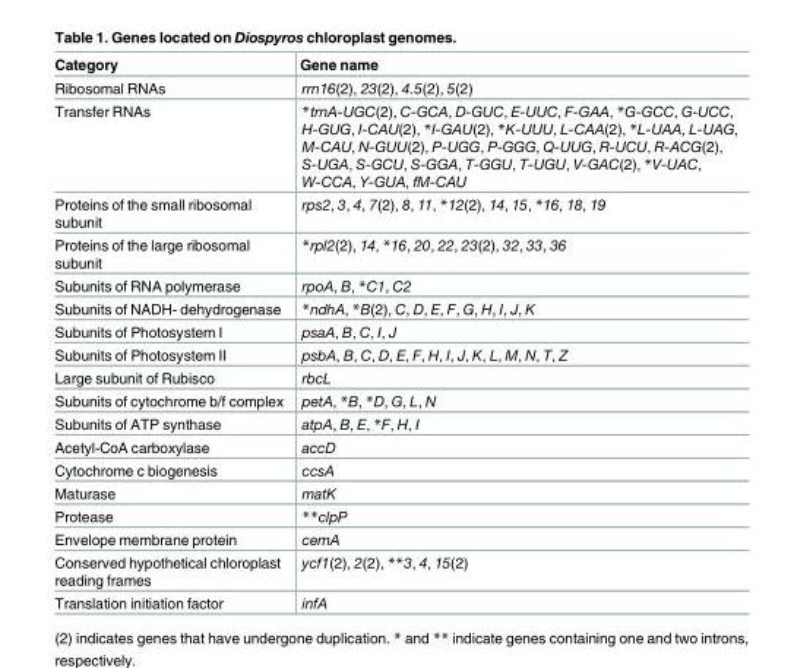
<table><thead><tr><td>Category</td><td>Gene name</td></tr></thead><tbody><tr><td>Ribosomal RNAs</td><td>rrn16(2), 23(2), 4.5(2), 5(2)</td></tr><tr><td>Transfer RNAs</td><td>*trnA-UGC(2), C-GCA, D-GUC, E-UUC, F-GAA, *G-GCC, G-UCC, H-GUG, I-CAU(2), *I-GAU(2), *K-UUU, L-CAA(2), *L-UAA, L-UAG, M-CAU, N-GUU(2), P-UGG, P-GGG, Q-UUG, R-UCU, R-ACG(2), S-UGA, S-GCU, S-GGA, T-GGU, T-UGU, V-GAC(2), *V-UAC, W-CCA, Y-GUA, fM-CAU</td></tr><tr><td>Proteins of the small ribosomal subunit</td><td>rps2, 3, 4, 7(2), 8, 11, *12(2), 14, 15, *16, 18, 19</td></tr><tr><td>Proteins of the large ribosomal subunit</td><td>*rpl2(2), 14, *16, 20, 22, 23(2), 32, 33, 36</td></tr><tr><td>Subunits of RNA polymerase</td><td>rpoA, B, *C1, C2</td></tr><tr><td>Subunits of NADH- dehydrogenase</td><td>*ndhA, *B(2), C, D, E, F, G, H, I, J, K</td></tr><tr><td>Subunits of Photosystem I</td><td>psaA, B, C, I, J</td></tr><tr><td>Subunits of Photosystem II</td><td>psbA, B, C, D, E, F, H, I, J, K, L, M, N, T, Z</td></tr><tr><td>Large subunit of Rubisco</td><td>rbcL</td></tr><tr><td>Subunits of cytochrome b/f complex</td><td>petA, *B, *D, G, L, N</td></tr><tr><td>Subunits of ATP synthase</td><td>atpA, B, E, *F, H, I</td></tr><tr><td>Acetyl-CoA carboxylase</td><td>accD</td></tr><tr><td>Cytochrome c biogenesis</td><td>ccsA</td></tr><tr><td>Maturase</td><td>matK</td></tr><tr><td>Protease</td><td>**clpP</td></tr><tr><td>Envelope membrane protein</td><td>cemA</td></tr><tr><td>Conserved hypothetical chloroplast reading frames</td><td>ycf1(2), 2(2), **3, 4, 15(2)</td></tr><tr><td>Translation initiation factor</td><td>infA</td></tr></tbody></table>